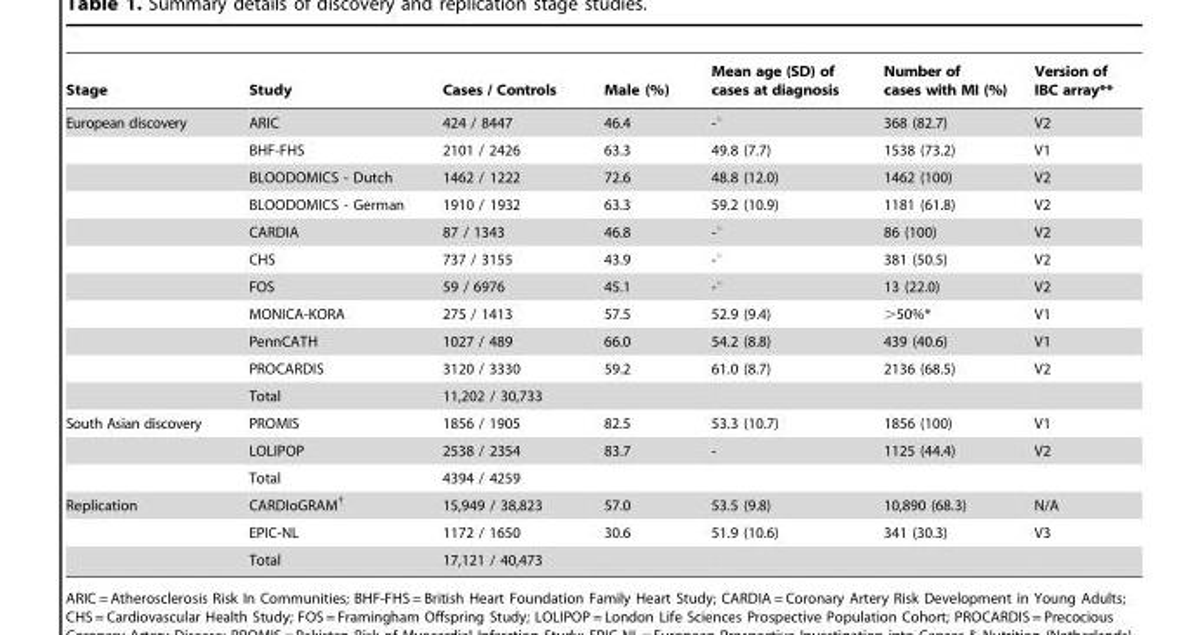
<table><thead><tr><td>Stage</td><td>Study</td><td>Cases / Controls</td><td>Male (%)</td><td>Mean age (SD) of cases at diagnosis</td><td>Number of cases with MI (%)</td><td>Version of IBC array**</td></tr></thead><tbody><tr><td rowspan="11">European discovery</td><td>ARIC</td><td>424 / 8447</td><td>46.4</td><td>-°</td><td>368 (82.7)</td><td>V2</td></tr><tr><td>BHF-FHS</td><td>2101 / 2426</td><td>63.3</td><td>49.8 (7.7)</td><td>1538 (73.2)</td><td>V1</td></tr><tr><td>BLOODOMICS - Dutch</td><td>1462 / 1222</td><td>72.6</td><td>48.8 (12.0)</td><td>1462 (100)</td><td>V2</td></tr><tr><td>BLOODOMICS - German</td><td>1910 / 1932</td><td>63.3</td><td>59.2 (10.9)</td><td>1181 (61.8)</td><td>V2</td></tr><tr><td>CARDIA</td><td>87 / 1343</td><td>46.8</td><td>-°</td><td>86 (100)</td><td>V2</td></tr><tr><td>CHS</td><td>737 / 3155</td><td>43.9</td><td>-°</td><td>381 (50.5)</td><td>V2</td></tr><tr><td>FOS</td><td>59 / 6976</td><td>45.1</td><td>-°</td><td>13 (22.0)</td><td>V2</td></tr><tr><td>MONICA-KORA</td><td>275 / 1413</td><td>57.5</td><td>52.9 (9.4)</td><td>&gt;50%*</td><td>V1</td></tr><tr><td>PennCATH</td><td>1027 / 489</td><td>66.0</td><td>54.2 (8.8)</td><td>439 (40.6)</td><td>V1</td></tr><tr><td>PROCARDIS</td><td>3120 / 3330</td><td>59.2</td><td>61.0 (8.7)</td><td>2136 (68.5)</td><td>V2</td></tr><tr><td>Total</td><td>11,202 / 30,733</td><td></td><td></td><td></td><td></td></tr><tr><td rowspan="3">South Asian discovery</td><td>PROMIS</td><td>1856 / 1905</td><td>82.5</td><td>53.3 (10.7)</td><td>1856 (100)</td><td>V1</td></tr><tr><td>LOLIPOP</td><td>2538 / 2354</td><td>83.7</td><td>-</td><td>1125 (44.4)</td><td>V2</td></tr><tr><td>Total</td><td>4394 / 4259</td><td></td><td></td><td></td><td></td></tr><tr><td rowspan="3">Replication</td><td>CARDIoGRAM†</td><td>15,949 / 38,823</td><td>57.0</td><td>53.5 (9.8)</td><td>10,890 (68.3)</td><td>N/A</td></tr><tr><td>EPIC-NL</td><td>1172 / 1650</td><td>30.6</td><td>51.9 (10.6)</td><td>341 (30.3)</td><td>V3</td></tr><tr><td>Total</td><td>17,121 / 40,473</td><td></td><td></td><td></td><td></td></tr></tbody></table>